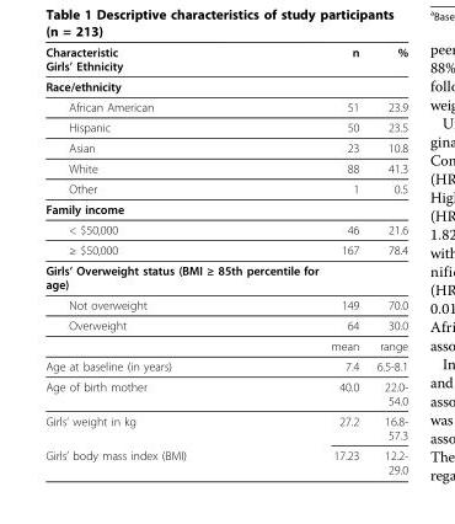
<table><thead><tr><td>Characteristic Girls’ Ethnicity</td><td>n</td><td>%</td></tr></thead><tbody><tr><td colspan="3">Race/ethnicity</td></tr><tr><td>African American</td><td>51</td><td>23.9</td></tr><tr><td>Hispanic</td><td>50</td><td>23.5</td></tr><tr><td>Asian</td><td>23</td><td>10.8</td></tr><tr><td>White</td><td>88</td><td>41.3</td></tr><tr><td>Other</td><td>1</td><td>0.5</td></tr><tr><td colspan="3">Family income</td></tr><tr><td>&lt; $50,000</td><td>46</td><td>21.6</td></tr><tr><td>≥ $50,000</td><td>167</td><td>78.4</td></tr><tr><td colspan="3">Girls’ Overweight status (BMI ≥ 85th percentile for age)</td></tr><tr><td>Not overweight</td><td>149</td><td>70.0</td></tr><tr><td rowspan="2">Overweight</td><td>64</td><td>30.0</td></tr><tr><td>mean</td><td>range</td></tr><tr><td>Age at baseline (in years)</td><td>7.4</td><td>6.5-8.1</td></tr><tr><td>Age of birth mother</td><td>40.0</td><td>22.0- 54.0</td></tr><tr><td>Girls’ weight in kg</td><td>27.2</td><td>16.8- 57.3</td></tr><tr><td>Girls’ body mass index (BMI)</td><td>17.23</td><td>12.2- 29.0</td></tr></tbody></table>